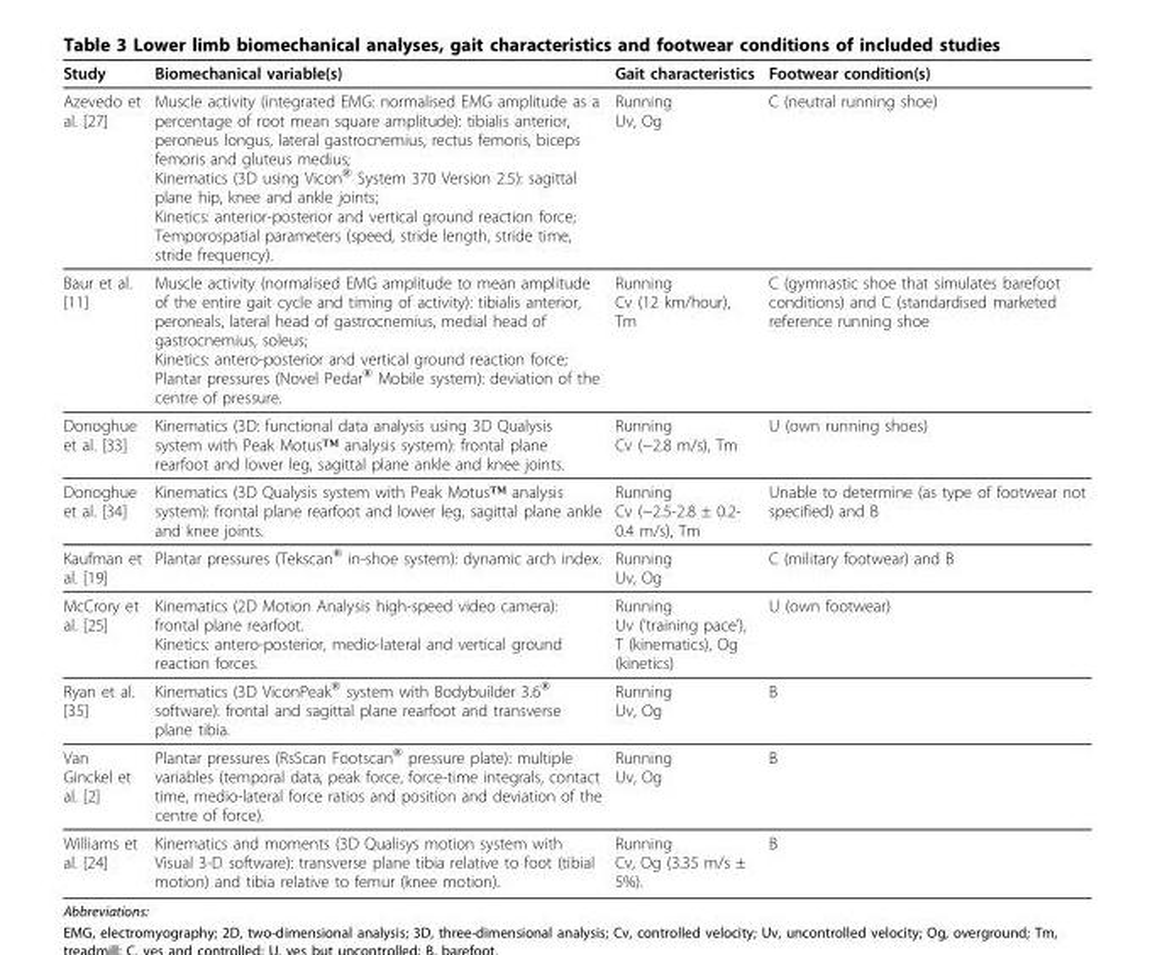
<table><thead><tr><td>Study</td><td>Biomechanical variable(s)</td><td>Gait characteristics</td><td>Footwear condition(s)</td></tr></thead><tbody><tr><td>Azevedo et al. [27]</td><td>Muscle activity (integrated EMG: normalised EMG amplitude as a percentage of root mean square amplitude): tibialis anterior, peroneus longus, lateral gastrocnemius, rectus femoris, biceps femoris and gluteus medius; Kinematics (3D using Vicon<sup>®</sup> System 370 Version 2.5): sagittal plane hip, knee and ankle joints; Kinetics: anterior-posterior and vertical ground reaction force; Temporospatial parameters (speed, stride length, stride time, stride frequency).</td><td>Running Uv, Og</td><td>C (neutral running shoe)</td></tr><tr><td>Baur et al. [11]</td><td>Muscle activity (normalised EMG amplitude to mean amplitude of the entire gait cycle and timing of activity): tibialis anterior, peroneals, lateral head of gastrocnemius, medial head of gastrocnemius, soleus; Kinetics: antero-posterior and vertical ground reaction force; Plantar pressures (Novel Pedar<sup>®</sup> Mobile system): deviation of the centre of pressure.</td><td>Running Cv (12 km/hour), Tm</td><td>C (gymnastic shoe that simulates barefoot conditions) and C (standardised marketed reference running shoe</td></tr><tr><td>Donoghue et al. [33]</td><td>Kinematics (3D: functional data analysis using 3D Qualysis system with Peak Motus™ analysis system): frontal plane rearfoot and lower leg, sagittal plane ankle and knee joints.</td><td>Running Cv (~2.8 m/s), Tm</td><td>U (own running shoes)</td></tr><tr><td>Donoghue et al. [34]</td><td>Kinematics (3D Qualysis system with Peak Motus™ analysis system): frontal plane rearfoot and lower leg, sagittal plane ankle and knee joints.</td><td>Running Cv (~2.5-2.8 ± 0.2- 0.4 m/s), Tm</td><td>Unable to determine (as type of footwear not specified) and B</td></tr><tr><td>Kaufman et al. [19]</td><td>Plantar pressures (Tekscan<sup>®</sup> in-shoe system): dynamic arch index.</td><td>Running Uv, Og</td><td>C (military footwear) and B</td></tr><tr><td>McCrory et al. [25]</td><td>Kinematics (2D Motion Analysis high-speed video camera): frontal plane rearfoot. Kinetics: antero-posterior, medio-lateral and vertical ground reaction forces.</td><td>Running Uv (’training pace’), T (kinematics), Og (kinetics)</td><td>U (own footwear)</td></tr><tr><td>Ryan et al. [35]</td><td>Kinematics (3D ViconPeak<sup>®</sup> system with Bodybuilder 3.6<sup>®</sup> software): frontal and sagittal plane rearfoot and transverse plane tibia.</td><td>Running Uv, Og</td><td>B</td></tr><tr><td>Van Ginckel et al. [2]</td><td>Plantar pressures (RsScan Footscan<sup>®</sup> pressure plate): multiple variables (temporal data, peak force, force-time integrals, contact time, medio-lateral force ratios and position and deviation of the centre of force).</td><td>Running Uv, Og</td><td>B</td></tr><tr><td>Williams et al. [24]</td><td>Kinematics and moments (3D Qualisys motion system with Visual 3-D software): transverse plane tibia relative to foot (tibial motion) and tibia relative to femur (knee motion).</td><td>Running Cv, Og (3.35 m/s ± 5%).</td><td>B</td></tr></tbody></table>